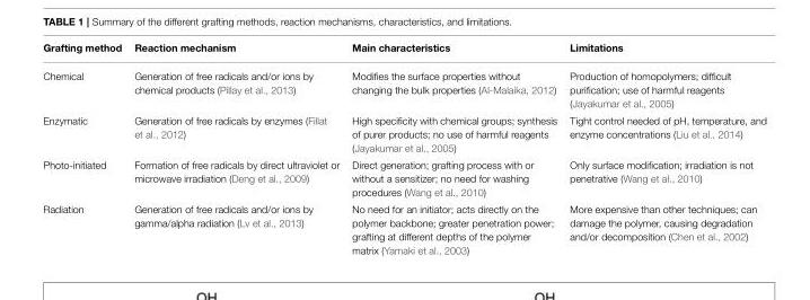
<table><thead><tr><td>Grafting method</td><td>Reaction mechanism</td><td>Main characteristics</td><td>Limitations</td></tr></thead><tbody><tr><td>Chemical</td><td>Generation of free radicals and/or ions by chemical products (Pillay et al., 2013)</td><td>Modifies the surface properties without changing the bulk properties (Al-Malaika, 2012)</td><td>Production of homopolymers; difficult purification; use of harmful reagents (Jayakumar et al., 2005)</td></tr><tr><td>Enzymatic</td><td>Generation of free radicals by enzymes (Fillat et al., 2012)</td><td>High specificity with chemical groups; synthesis of purer products; no use of harmful reagents (Jayakumar et al., 2005)</td><td>Tight control needed of pH, temperature, and enzyme concentrations (Liu et al., 2014)</td></tr><tr><td>Photo-initiated</td><td>Formation of free radicals by direct ultraviolet or microwave irradiation (Deng et al., 2009)</td><td>Direct generation; grafting process with or without a sensitizer; no need for washing procedures (Wang et al., 2010)</td><td>Only surface modification; irradiation is not penetrative (Wang et al., 2010)</td></tr><tr><td>Radiation</td><td>Generation of free radicals and/or ions by gamma/alpha radiation (Lv et al., 2013)</td><td>No need for an initiator; acts directly on the polymer backbone; greater penetration power; grafting at different depths of the polymer matrix (Yamaki et al., 2003)</td><td>More expensive than other techniques; can damage the polymer, causing degradation and/or decomposition (Chen et al., 2002)</td></tr></tbody></table>